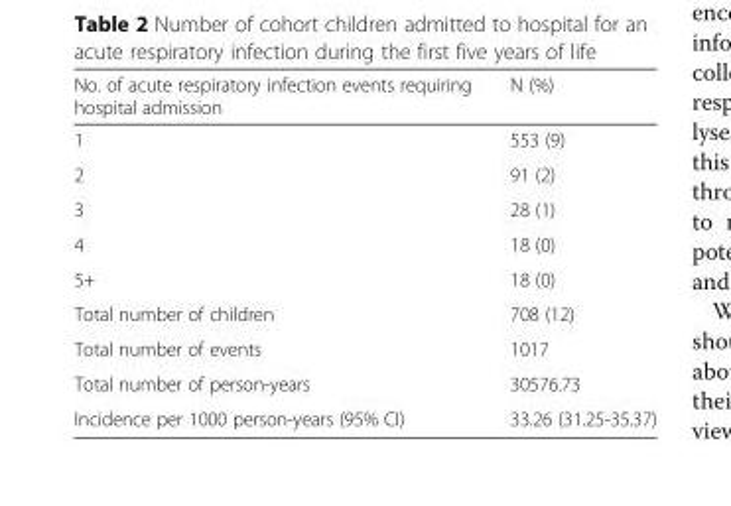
<table><thead><tr><td>No. of acute respiratory infection events requiring hospital admission</td><td>N (%)</td></tr></thead><tbody><tr><td>1</td><td>553 (9)</td></tr><tr><td>2</td><td>91 (2)</td></tr><tr><td>3</td><td>28 (1)</td></tr><tr><td>4</td><td>18 (0)</td></tr><tr><td>5+</td><td>18 (0)</td></tr><tr><td>Total number of children</td><td>708 (12)</td></tr><tr><td>Total number of events</td><td>1017</td></tr><tr><td>Total number of person-years</td><td>30576.73</td></tr><tr><td>Incidence per 1000 person-years (95% CI)</td><td>33.26 (31.25-35.37)</td></tr></tbody></table>